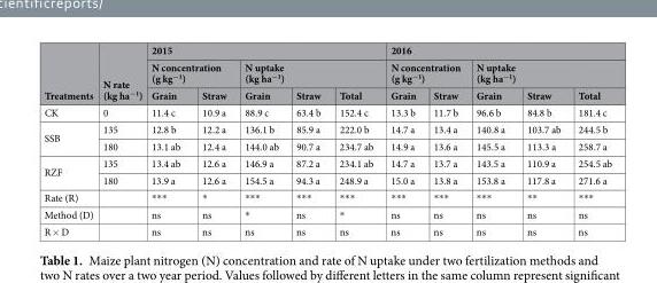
<table><thead><tr><td rowspan="3">Treatments</td><td rowspan="3">N rate (kg ha<sup>−1</sup>)</td><td colspan="5">2015</td><td colspan="5">2016</td></tr><tr><td colspan="2">N concentration (g kg<sup>−1</sup>)</td><td colspan="3">N uptake (kg ha<sup>−1</sup>)</td><td colspan="2">N concentration (g kg<sup>−1</sup>)</td><td colspan="3">N uptake (kg ha<sup>−1</sup>)</td></tr><tr><td>Grain</td><td>Straw</td><td>Grain</td><td>Straw</td><td>Total</td><td>Grain</td><td>Straw</td><td>Grain</td><td>Straw</td><td>Total</td></tr></thead><tbody><tr><td>CK</td><td>0</td><td>11.4 c</td><td>10.9 a</td><td>88.9 c</td><td>63.4 b</td><td>152.4 c</td><td>13.3 b</td><td>11.7 b</td><td>96.6 b</td><td>84.8 b</td><td>181.4 c</td></tr><tr><td rowspan="2">SSB</td><td>135</td><td>12.8 b</td><td>12.2 a</td><td>136.1 b</td><td>85.9 a</td><td>222.0 b</td><td>14.7 a</td><td>13.4 a</td><td>140.8 a</td><td>103.7 ab</td><td>244.5 b</td></tr><tr><td>180</td><td>13.1 ab</td><td>12.4 a</td><td>144.0 ab</td><td>90.7 a</td><td>234.7 ab</td><td>14.9 a</td><td>13.6 a</td><td>145.5 a</td><td>113.3 a</td><td>258.7 a</td></tr><tr><td rowspan="2">RZF</td><td>135</td><td>13.4 ab</td><td>12.6 a</td><td>146.9 a</td><td>87.2 a</td><td>234.1 ab</td><td>14.7 a</td><td>13.7 a</td><td>143.5 a</td><td>110.9 a</td><td>254.5 ab</td></tr><tr><td>180</td><td>13.9 a</td><td>12.6 a</td><td>154.5 a</td><td>94.3 a</td><td>248.9 a</td><td>15.0 a</td><td>13.8 a</td><td>153.8 a</td><td>117.8 a</td><td>271.6 a</td></tr><tr><td>Rate (R)</td><td></td><td>***</td><td>*</td><td>***</td><td>***</td><td>***</td><td>***</td><td>***</td><td>***</td><td>**</td><td>***</td></tr><tr><td>Method (D)</td><td></td><td>ns</td><td>ns</td><td>*</td><td>ns</td><td>*</td><td>ns</td><td>ns</td><td>ns</td><td>ns</td><td>ns</td></tr><tr><td>R × D</td><td></td><td>ns</td><td>ns</td><td>ns</td><td>ns</td><td>ns</td><td>ns</td><td>ns</td><td>ns</td><td>ns</td><td>ns</td></tr></tbody></table>